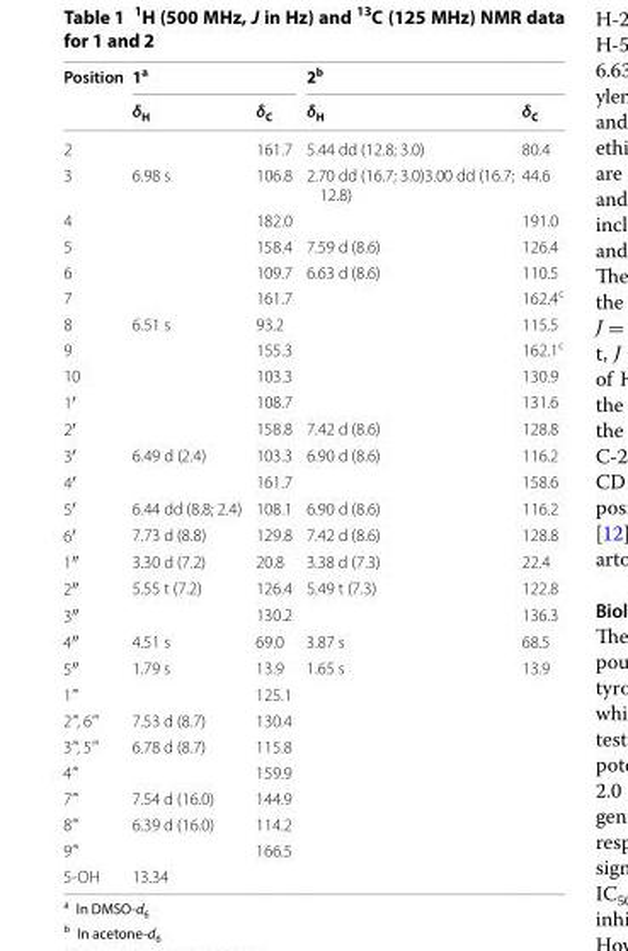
<table><thead><tr><td rowspan="2">Position</td><td colspan="2">1<sup>a</sup></td><td colspan="2">2<sup>b</sup></td></tr><tr><td>δ<sub>H</sub></td><td>δ<sub>C</sub></td><td>δ<sub>H</sub></td><td>δ<sub>C</sub></td></tr></thead><tbody><tr><td>2</td><td></td><td>161.7</td><td>5.44 dd (12.8; 3.0)</td><td>80.4</td></tr><tr><td>3</td><td>6.98 s</td><td>106.8</td><td>2.70 dd (16.7; 3.0)3.00 dd (16.7; 12.8)</td><td>44.6</td></tr><tr><td>4</td><td></td><td>182.0</td><td></td><td>191.0</td></tr><tr><td>5</td><td></td><td>158.4</td><td>7.59 d (8.6)</td><td>126.4</td></tr><tr><td>6</td><td></td><td>109.7</td><td>6.63 d (8.6)</td><td>110.5</td></tr><tr><td>7</td><td></td><td>161.7</td><td></td><td>162.4<sup>c</sup></td></tr><tr><td>8</td><td>6.51 s</td><td>93.2</td><td></td><td>115.5</td></tr><tr><td>9</td><td></td><td>155.3</td><td></td><td>162.1<sup>c</sup></td></tr><tr><td>10</td><td></td><td>103.3</td><td></td><td>130.9</td></tr><tr><td>1′</td><td></td><td>108.7</td><td></td><td>131.6</td></tr><tr><td>2′</td><td></td><td>158.8</td><td>7.42 d (8.6)</td><td>128.8</td></tr><tr><td>3′</td><td>6.49 d (2.4)</td><td>103.3</td><td>6.90 d (8.6)</td><td>116.2</td></tr><tr><td>4′</td><td></td><td>161.7</td><td></td><td>158.6</td></tr><tr><td>5′</td><td>6.44 dd (8.8; 2.4)</td><td>108.1</td><td>6.90 d (8.6)</td><td>116.2</td></tr><tr><td>6′</td><td>7.73 d (8.8)</td><td>129.8</td><td>7.42 d (8.6)</td><td>128.8</td></tr><tr><td>1″</td><td>3.30 d (7.2)</td><td>20.8</td><td>3.38 d (7.3)</td><td>22.4</td></tr><tr><td>2″</td><td>5.55 t (7.2)</td><td>126.4</td><td>5.49 t (7.3)</td><td>122.8</td></tr><tr><td>3″</td><td></td><td>130.2</td><td></td><td>136.3</td></tr><tr><td>4″</td><td>4.51 s</td><td>69.0</td><td>3.87 s</td><td>68.5</td></tr><tr><td>5″</td><td>1.79 s</td><td>13.9</td><td>1.65 s</td><td>13.9</td></tr><tr><td>1’’’</td><td></td><td>125.1</td><td></td><td></td></tr><tr><td>2’’’, 6’’’</td><td>7.53 d (8.7)</td><td>130.4</td><td></td><td></td></tr><tr><td>3’’’, 5’’’</td><td>6.78 d (8.7)</td><td>115.8</td><td></td><td></td></tr><tr><td>4’’’</td><td></td><td>159.9</td><td></td><td></td></tr><tr><td>7’’’</td><td>7.54 d (16.0)</td><td>144.9</td><td></td><td></td></tr><tr><td>8’’’</td><td>6.39 d (16.0)</td><td>114.2</td><td></td><td></td></tr><tr><td>9’’’</td><td></td><td>166.5</td><td></td><td></td></tr><tr><td>5-OH</td><td>13.34</td><td></td><td></td><td></td></tr></tbody></table>